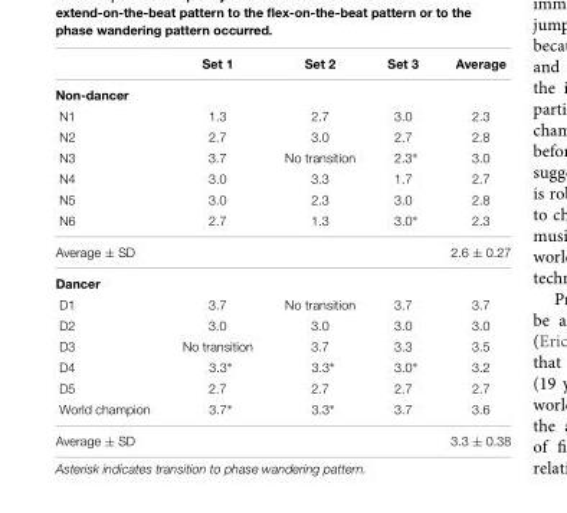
<table><thead><tr><td></td><td>Set 1</td><td>Set 2</td><td>Set 3</td><td>Average</td></tr></thead><tbody><tr><td colspan="5">Non-dancer</td></tr><tr><td>N1</td><td>1.3</td><td>2.7</td><td>3.0</td><td>2.3</td></tr><tr><td>N2</td><td>2.7</td><td>3.0</td><td>2.7</td><td>2.8</td></tr><tr><td>N3</td><td>3.7</td><td>No transition</td><td>2.3∗</td><td>3.0</td></tr><tr><td>N4</td><td>3.0</td><td>3.3</td><td>1.7</td><td>2.7</td></tr><tr><td>N5</td><td>3.0</td><td>2.3</td><td>3.0</td><td>2.8</td></tr><tr><td>N6</td><td>2.7</td><td>1.3</td><td>3.0∗</td><td>2.3</td></tr><tr><td>Average ± SD</td><td></td><td></td><td></td><td>2.6 ± 0.27</td></tr><tr><td colspan="5">Dancer</td></tr><tr><td>D1</td><td>3.7</td><td>No transition</td><td>3.7</td><td>3.7</td></tr><tr><td>D2</td><td>3.0</td><td>3.0</td><td>3.0</td><td>3.0</td></tr><tr><td>D3</td><td>No transition</td><td>3.7</td><td>3.3</td><td>3.5</td></tr><tr><td>D4</td><td>3.3∗</td><td>3.3∗</td><td>3.0∗</td><td>3.2</td></tr><tr><td>D5</td><td>2.7</td><td>2.7</td><td>2.7</td><td>2.7</td></tr><tr><td>World champion</td><td>3.7∗</td><td>3.3∗</td><td>3.7</td><td>3.6</td></tr><tr><td>Average ± SD</td><td></td><td></td><td></td><td>3.3 ± 0.38</td></tr></tbody></table>